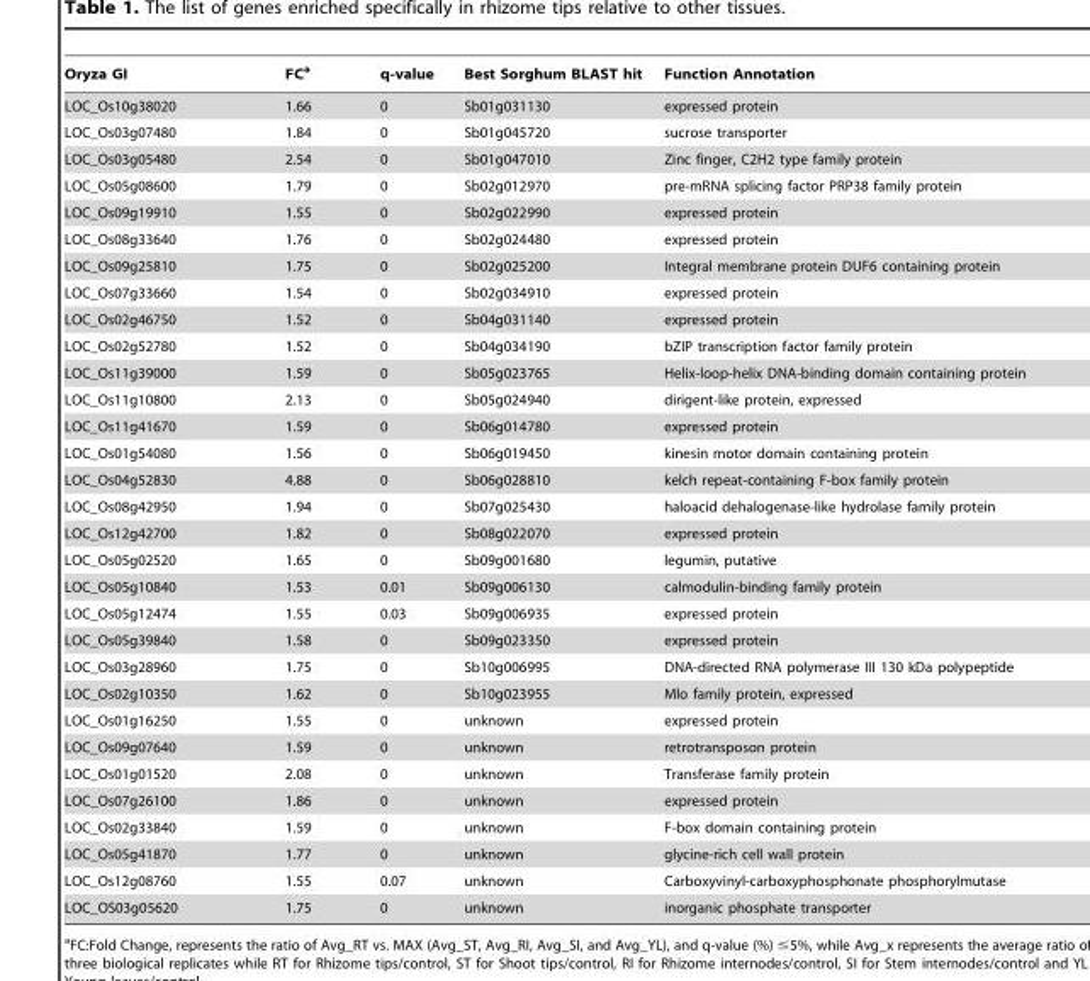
<table><thead><tr><td>Oryza GI</td><td>FC<sup>a</sup></td><td>q-value</td><td>Best Sorghum BLAST hit</td><td>Function Annotation</td></tr></thead><tbody><tr><td>LOC_Os10g38020</td><td>1.66</td><td>0</td><td>Sb01g031130</td><td>expressed protein</td></tr><tr><td>LOC_Os03g07480</td><td>1.84</td><td>0</td><td>Sb01g045720</td><td>sucrose transporter</td></tr><tr><td>LOC_Os03g05480</td><td>2.54</td><td>0</td><td>Sb01g047010</td><td>Zinc finger, C2H2 type family protein</td></tr><tr><td>LOC_Os05g08600</td><td>1.79</td><td>0</td><td>Sb02g012970</td><td>pre-mRNA splicing factor PRP38 family protein</td></tr><tr><td>LOC_Os09g19910</td><td>1.55</td><td>0</td><td>Sb02g022990</td><td>expressed protein</td></tr><tr><td>LOC_Os08g33640</td><td>1.76</td><td>0</td><td>Sb02g024480</td><td>expressed protein</td></tr><tr><td>LOC_Os09g25810</td><td>1.75</td><td>0</td><td>Sb02g025200</td><td>Integral membrane protein DUF6 containing protein</td></tr><tr><td>LOC_Os07g33660</td><td>1.54</td><td>0</td><td>Sb02g034910</td><td>expressed protein</td></tr><tr><td>LOC_Os02g46750</td><td>1.52</td><td>0</td><td>Sb04g031140</td><td>expressed protein</td></tr><tr><td>LOC_Os02g52780</td><td>1.52</td><td>0</td><td>Sb04g034190</td><td>bZIP transcription factor family protein</td></tr><tr><td>LOC_Os11g39000</td><td>1.59</td><td>0</td><td>Sb05g023765</td><td>Helix-loop-helix DNA-binding domain containing protein</td></tr><tr><td>LOC_Os11g10800</td><td>2.13</td><td>0</td><td>Sb05g024940</td><td>dirigent-like protein, expressed</td></tr><tr><td>LOC_Os11g41670</td><td>1.59</td><td>0</td><td>Sb06g014780</td><td>expressed protein</td></tr><tr><td>LOC_Os01g54080</td><td>1.56</td><td>0</td><td>Sb06g019450</td><td>kinesin motor domain containing protein</td></tr><tr><td>LOC_Os04g52830</td><td>4.88</td><td>0</td><td>Sb06g028810</td><td>kelch repeat-containing F-box family protein</td></tr><tr><td>LOC_Os08g42950</td><td>1.94</td><td>0</td><td>Sb07g025430</td><td>haloacid dehalogenase-like hydrolase family protein</td></tr><tr><td>LOC_Os12g42700</td><td>1.82</td><td>0</td><td>Sb08g022070</td><td>expressed protein</td></tr><tr><td>LOC_Os05g02520</td><td>1.65</td><td>0</td><td>Sb09g001680</td><td>legumin, putative</td></tr><tr><td>LOC_Os05g10840</td><td>1.53</td><td>0.01</td><td>Sb09g006130</td><td>calmodulin-binding family protein</td></tr><tr><td>LOC_Os05g12474</td><td>1.55</td><td>0.03</td><td>Sb09g006935</td><td>expressed protein</td></tr><tr><td>LOC_Os05g39840</td><td>1.58</td><td>0</td><td>Sb09g023350</td><td>expressed protein</td></tr><tr><td>LOC_Os03g28960</td><td>1.75</td><td>0</td><td>Sb10g006995</td><td>DNA-directed RNA polymerase III 130 kDa polypeptide</td></tr><tr><td>LOC_Os02g10350</td><td>1.62</td><td>0</td><td>Sb10g023955</td><td>Mlo family protein, expressed</td></tr><tr><td>LOC_Os01g16250</td><td>1.55</td><td>0</td><td>unknown</td><td>expressed protein</td></tr><tr><td>LOC_Os09g07640</td><td>1.59</td><td>0</td><td>unknown</td><td>retrotransposon protein</td></tr><tr><td>LOC_Os01g01520</td><td>2.08</td><td>0</td><td>unknown</td><td>Transferase family protein</td></tr><tr><td>LOC_Os07g26100</td><td>1.86</td><td>0</td><td>unknown</td><td>expressed protein</td></tr><tr><td>LOC_Os02g33840</td><td>1.59</td><td>0</td><td>unknown</td><td>F-box domain containing protein</td></tr><tr><td>LOC_Os05g41870</td><td>1.77</td><td>0</td><td>unknown</td><td>glycine-rich cell wall protein</td></tr><tr><td>LOC_Os12g08760</td><td>1.55</td><td>0.07</td><td>unknown</td><td>Carboxyvinyl-carboxyphosphonate phosphorylmutase</td></tr><tr><td>LOC_OS03g05620</td><td>1.75</td><td>0</td><td>unknown</td><td>inorganic phosphate transporter</td></tr></tbody></table>